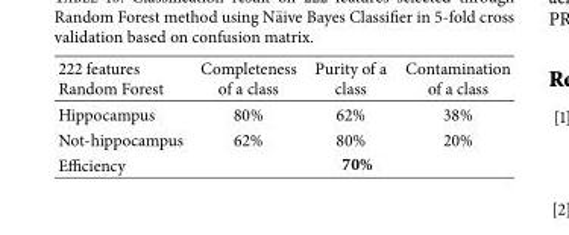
<table><thead><tr><td>222 features Random Forest</td><td>Completeness of a class</td><td>Purity of a class</td><td>Contamination of a class</td></tr></thead><tbody><tr><td>Hippocampus</td><td>80%</td><td>62%</td><td>38%</td></tr><tr><td>Not-hippocampus</td><td>62%</td><td>80%</td><td>20%</td></tr><tr><td>Efficiency</td><td colspan="3">70%</td></tr></tbody></table>